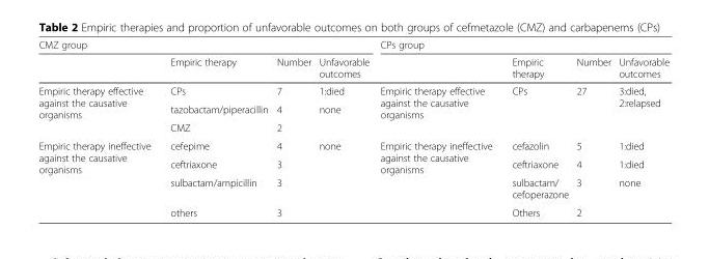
<table><thead><tr><td colspan="4">CMZ group</td><td colspan="4">CPs group</td></tr><tr><td></td><td>Empiric therapy</td><td>Number</td><td>Unfavorable outcomes</td><td></td><td>Empiric therapy</td><td>Number</td><td>Unfavorable outcomes</td></tr></thead><tbody><tr><td rowspan="3">Empiric therapy effective against the causative organisms</td><td>CPs</td><td>7</td><td>1:died</td><td rowspan="3">Empiric therapy effective against the causative organisms</td><td rowspan="3">CPs</td><td rowspan="3">27</td><td rowspan="3">3:died, 2:relapsed</td></tr><tr><td>tazobactam/piperacillin</td><td>4</td><td rowspan="2">none</td></tr><tr><td>CMZ</td><td>2</td></tr><tr><td rowspan="4">Empiric therapy ineffective against the causative organisms</td><td>cefepime</td><td>4</td><td rowspan="4">none</td><td rowspan="4">Empiric therapy ineffective against the causative organisms</td><td>cefazolin</td><td>5</td><td>1:died</td></tr><tr><td>ceftriaxone</td><td>3</td><td>ceftriaxone</td><td>4</td><td>1:died</td></tr><tr><td>sulbactam/ampicillin</td><td>3</td><td>sulbactam/ cefoperazone</td><td>3</td><td rowspan="2">none</td></tr><tr><td>others</td><td>3</td><td>Others</td><td>2</td></tr></tbody></table>